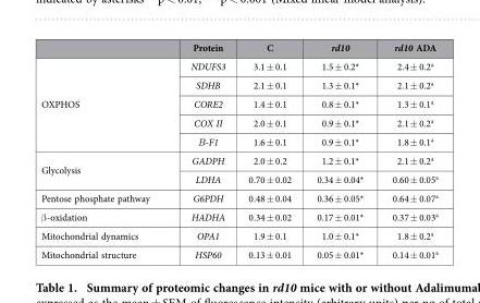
<table><thead><tr><td></td><td>Protein</td><td>C</td><td>rd10</td><td>rd10 ADA</td></tr></thead><tbody><tr><td rowspan="5">OXPHOS</td><td>NDUFS3</td><td>3.1 ± 0.1</td><td>1.5 ± 0.2*</td><td>2.4 ± 0.2<sup>a</sup></td></tr><tr><td>SDHB</td><td>2.1 ± 0.1</td><td>1.3 ± 0.1*</td><td>2.1 ± 0.2<sup>a</sup></td></tr><tr><td>CORE2</td><td>1.4 ± 0.1</td><td>0.8 ± 0.1*</td><td>1.3 ± 0.1<sup>a</sup></td></tr><tr><td>COX II</td><td>2.0 ± 0.1</td><td>0.9 ± 0.1*</td><td>2.1 ± 0.2<sup>a</sup></td></tr><tr><td>Β-F1</td><td>1.6 ± 0.1</td><td>0.9 ± 0.1*</td><td>1.8 ± 0.1<sup>a</sup></td></tr><tr><td rowspan="2">Glycolysis</td><td>GADPH</td><td>2.0 ± 0.2</td><td>1.2 ± 0.1*</td><td>2.1 ± 0.2<sup>a</sup></td></tr><tr><td>LDHA</td><td>0.70 ± 0.02</td><td>0.34 ± 0.04*</td><td>0.60 ± 0.05<sup>a</sup></td></tr><tr><td>Pentose phosphate pathway</td><td>G6PDH</td><td>0.48 ± 0.04</td><td>0.36 ± 0.05*</td><td>0.64 ± 0.07<sup>a</sup></td></tr><tr><td>β -oxidation</td><td>HADHA</td><td>0.34 ± 0.02</td><td>0.17 ± 0.01*</td><td>0.37 ± 0.03<sup>a</sup></td></tr><tr><td>Mitochondrial dynamics</td><td>OPA1</td><td>1.9 ± 0.1</td><td>1.0 ± 0.1*</td><td>1.8 ± 0.2<sup>a</sup></td></tr><tr><td>Mitochondrial structure</td><td>HSP60</td><td>0.13 ± 0.01</td><td>0.05 ± 0.01*</td><td>0.14 ± 0.01<sup>a</sup></td></tr></tbody></table>